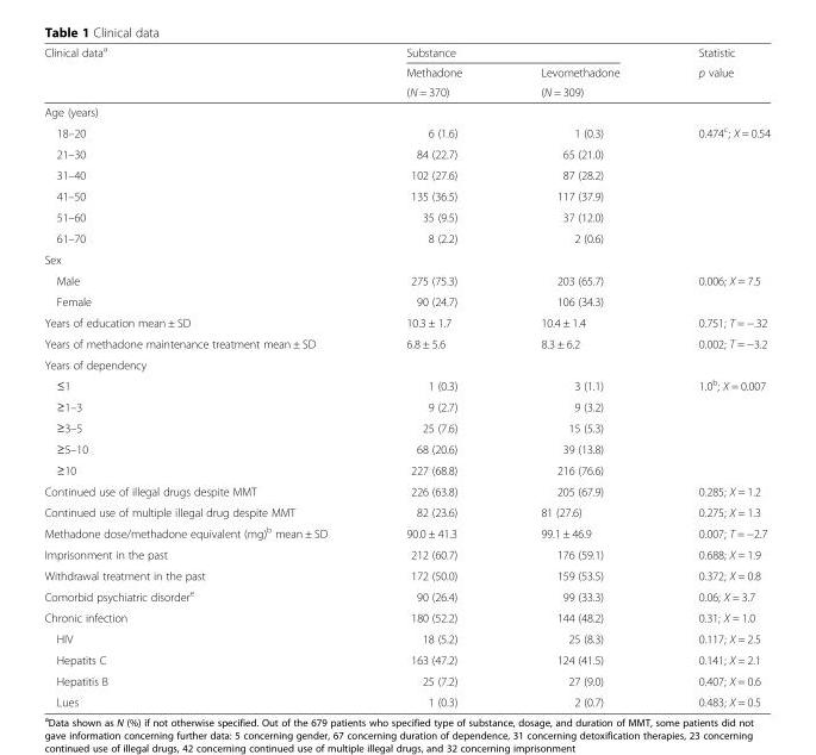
<table><thead><tr><td rowspan="3">Clinical data<sup>a</sup></td><td colspan="2">Substance</td><td rowspan="3">Statistic p value</td></tr><tr><td rowspan="2">Methadone (N = 370)</td><td rowspan="2">Levomethadone (N = 309)</td></tr><tr></tr></thead><tbody><tr><td colspan="4">Age (years)</td></tr><tr><td>18–20</td><td>6 (1.6)</td><td>1 (0.3)</td><td rowspan="6">0.474<sup>c</sup>; Χ = 0.54</td></tr><tr><td>21–30</td><td>84 (22.7)</td><td>65 (21.0)</td></tr><tr><td>31–40</td><td>102 (27.6)</td><td>87 (28.2)</td></tr><tr><td>41–50</td><td>135 (36.5)</td><td>117 (37.9)</td></tr><tr><td>51–60</td><td>35 (9.5)</td><td>37 (12.0)</td></tr><tr><td>61–70</td><td>8 (2.2)</td><td>2 (0.6)</td></tr><tr><td colspan="4">Sex</td></tr><tr><td>Male</td><td>275 (75.3)</td><td>203 (65.7)</td><td rowspan="2">0.006; Χ = 7.5</td></tr><tr><td>Female</td><td>90 (24.7)</td><td>106 (34.3)</td></tr><tr><td>Years of education mean ± SD</td><td>10.3 ± 1.7</td><td>10.4 ± 1.4</td><td>0.751; T = −.32</td></tr><tr><td>Years of methadone maintenance treatment mean ± SD</td><td>6.8 ± 5.6</td><td>8.3 ± 6.2</td><td>0.002; T = −3.2</td></tr><tr><td colspan="4">Years of dependency</td></tr><tr><td>≤1</td><td>1 (0.3)</td><td>3 (1.1)</td><td rowspan="5">1.0<sup>b</sup>; Χ = 0.007</td></tr><tr><td>≥1–3</td><td>9 (2.7)</td><td>9 (3.2)</td></tr><tr><td>≥3–5</td><td>25 (7.6)</td><td>15 (5.3)</td></tr><tr><td>≥5–10</td><td>68 (20.6)</td><td>39 (13.8)</td></tr><tr><td>≥10</td><td>227 (68.8)</td><td>216 (76.6)</td></tr><tr><td>Continued use of illegal drugs despite MMT</td><td>226 (63.8)</td><td>205 (67.9)</td><td>0.285; Χ = 1.2</td></tr><tr><td>Continued use of multiple illegal drug despite MMT</td><td>82 (23.6)</td><td>81 (27.6)</td><td>0.275; Χ = 1.3</td></tr><tr><td>Methadone dose/methadone equivalent (mg)<sup>b</sup> mean ± SD</td><td>90.0 ± 41.3</td><td>99.1 ± 46.9</td><td>0.007; T = −2.7</td></tr><tr><td>Imprisonment in the past</td><td>212 (60.7)</td><td>176 (59.1)</td><td>0.688; Χ = 1.9</td></tr><tr><td>Withdrawal treatment in the past</td><td>172 (50.0)</td><td>159 (53.5)</td><td>0.372; X = 0.8</td></tr><tr><td>Comorbid psychiatric disorder<sup>e</sup></td><td>90 (26.4)</td><td>99 (33.3)</td><td>0.06; X = 3.7</td></tr><tr><td>Chronic infection</td><td>180 (52.2)</td><td>144 (48.2)</td><td>0.31; X = 1.0</td></tr><tr><td>HIV</td><td>18 (5.2)</td><td>25 (8.3)</td><td>0.117; X = 2.5</td></tr><tr><td>Hepatits C</td><td>163 (47.2)</td><td>124 (41.5)</td><td>0.141; X = 2.1</td></tr><tr><td>Hepatitis B</td><td>25 (7.2)</td><td>27 (9.0)</td><td>0.407; X = 0.6</td></tr><tr><td>Lues</td><td>1 (0.3)</td><td>2 (0.7)</td><td>0.483; X = 0.5</td></tr></tbody></table>